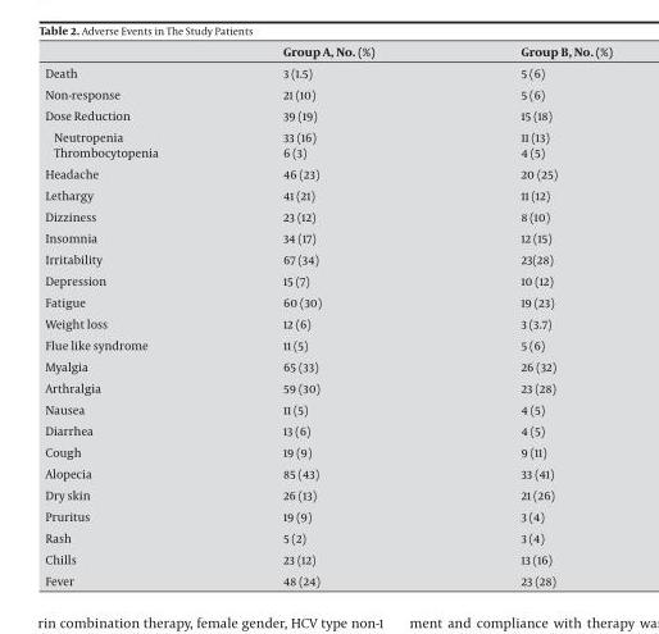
<table><thead><tr><td></td><td>Group A, No. (%)</td><td>Group B, No. (%)</td></tr></thead><tbody><tr><td>Death</td><td>3 (1.5)</td><td>5 (6)</td></tr><tr><td>Non-response</td><td>21 (10)</td><td>5 (6)</td></tr><tr><td>Dose Reduction</td><td>39 (19)</td><td>15 (18)</td></tr><tr><td>Neutropenia</td><td>33 (16)</td><td>11 (13)</td></tr><tr><td>Thrombocytopenia</td><td>6 (3)</td><td>4 (5)</td></tr><tr><td>Headache</td><td>46 (23)</td><td>20 (25)</td></tr><tr><td>Lethargy</td><td>41 (21)</td><td>11 (12)</td></tr><tr><td>Dizziness</td><td>23 (12)</td><td>8 (10)</td></tr><tr><td>Insomnia</td><td>34 (17)</td><td>12 (15)</td></tr><tr><td>Irritability</td><td>67 (34)</td><td>23(28)</td></tr><tr><td>Depression</td><td>15 (7)</td><td>10 (12)</td></tr><tr><td>Fatigue</td><td>60 (30)</td><td>19 (23)</td></tr><tr><td>Weight loss</td><td>12 (6)</td><td>3 (3.7)</td></tr><tr><td>Flue like syndrome</td><td>11 (5)</td><td>5 (6)</td></tr><tr><td>Myalgia</td><td>65 (33)</td><td>26 (32)</td></tr><tr><td>Arthralgia</td><td>59 (30)</td><td>23 (28)</td></tr><tr><td>Nausea</td><td>11 (5)</td><td>4 (5)</td></tr><tr><td>Diarrhea</td><td>13 (6)</td><td>4 (5)</td></tr><tr><td>Cough</td><td>19 (9)</td><td>9 (11)</td></tr><tr><td>Alopecia</td><td>85 (43)</td><td>33 (41)</td></tr><tr><td>Dry skin</td><td>26 (13)</td><td>21 (26)</td></tr><tr><td>Pruritus</td><td>19 (9)</td><td>3 (4)</td></tr><tr><td>Rash</td><td>5 (2)</td><td>3 (4)</td></tr><tr><td>Chills</td><td>23 (12)</td><td>13 (16)</td></tr><tr><td>Fever</td><td>48 (24)</td><td>23 (28)</td></tr></tbody></table>